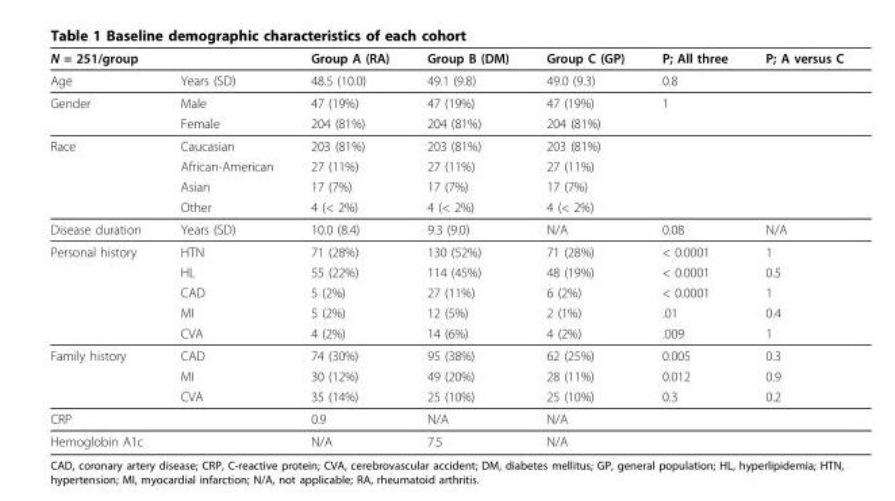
<table><thead><tr><td>N = 251/group</td><td></td><td>Group A (RA)</td><td>Group B (DM)</td><td>Group C (GP)</td><td>P; All three</td><td>P; A versus C</td></tr></thead><tbody><tr><td>Age</td><td>Years (SD)</td><td>48.5 (10.0)</td><td>49.1 (9.8)</td><td>49.0 (9.3)</td><td>0.8</td><td></td></tr><tr><td rowspan="2">Gender</td><td>Male</td><td>47 (19%)</td><td>47 (19%)</td><td>47 (19%)</td><td>1</td><td></td></tr><tr><td>Female</td><td>204 (81%)</td><td>204 (81%)</td><td>204 (81%)</td><td></td><td></td></tr><tr><td rowspan="4">Race</td><td>Caucasian</td><td>203 (81%)</td><td>203 (81%)</td><td>203 (81%)</td><td></td><td></td></tr><tr><td>African-American</td><td>27 (11%)</td><td>27 (11%)</td><td>27 (11%)</td><td></td><td></td></tr><tr><td>Asian</td><td>17 (7%)</td><td>17 (7%)</td><td>17 (7%)</td><td></td><td></td></tr><tr><td>Other</td><td>4 (&lt; 2%)</td><td>4 (&lt; 2%)</td><td>4 (&lt; 2%)</td><td></td><td></td></tr><tr><td>Disease duration</td><td>Years (SD)</td><td>10.0 (8.4)</td><td>9.3 (9.0)</td><td>N/A</td><td>0.08</td><td>N/A</td></tr><tr><td rowspan="5">Personal history</td><td>HTN</td><td>71 (28%)</td><td>130 (52%)</td><td>71 (28%)</td><td>&lt; 0.0001</td><td>1</td></tr><tr><td>HL</td><td>55 (22%)</td><td>114 (45%)</td><td>48 (19%)</td><td>&lt; 0.0001</td><td>0.5</td></tr><tr><td>CAD</td><td>5 (2%)</td><td>27 (11%)</td><td>6 (2%)</td><td>&lt; 0.0001</td><td>1</td></tr><tr><td>MI</td><td>5 (2%)</td><td>12 (5%)</td><td>2 (1%)</td><td>.01</td><td>0.4</td></tr><tr><td>CVA</td><td>4 (2%)</td><td>14 (6%)</td><td>4 (2%)</td><td>.009</td><td>1</td></tr><tr><td rowspan="3">Family history</td><td>CAD</td><td>74 (30%)</td><td>95 (38%)</td><td>62 (25%)</td><td>0.005</td><td>0.3</td></tr><tr><td>MI</td><td>30 (12%)</td><td>49 (20%)</td><td>28 (11%)</td><td>0.012</td><td>0.9</td></tr><tr><td>CVA</td><td>35 (14%)</td><td>25 (10%)</td><td>25 (10%)</td><td>0.3</td><td>0.2</td></tr><tr><td>CRP</td><td></td><td>0.9</td><td>N/A</td><td>N/A</td><td></td><td></td></tr><tr><td>Hemoglobin A1c</td><td></td><td>N/A</td><td>7.5</td><td>N/A</td><td></td><td></td></tr></tbody></table>